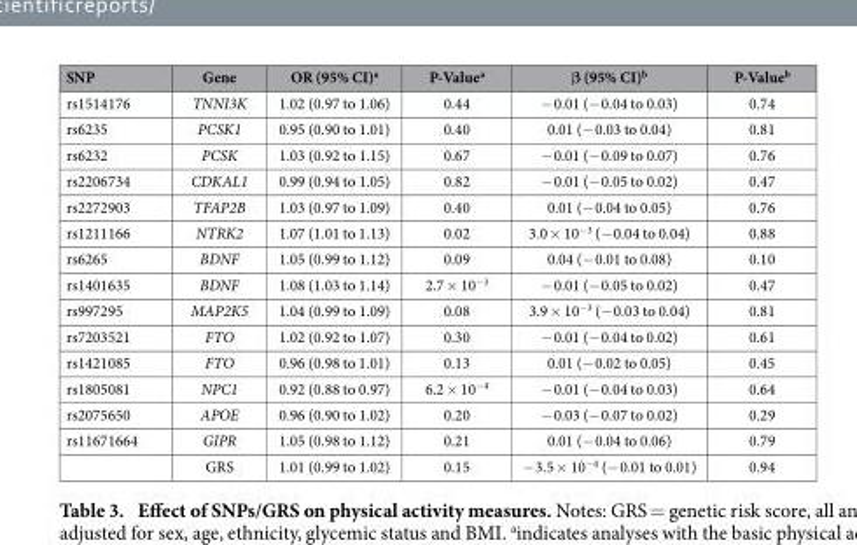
<table><thead><tr><td>SNP</td><td>Gene</td><td>OR (95% CI)<sup>a</sup></td><td>P-Value<sup>a</sup></td><td>β (95% CI)<sup>b</sup></td><td>P-Value<sup>b</sup></td></tr></thead><tbody><tr><td>rs1514176</td><td>TNNI3K</td><td>1.02 (0.97 to 1.06)</td><td>0.44</td><td>− 0.01 (− 0.04 to 0.03)</td><td>0.74</td></tr><tr><td>rs6235</td><td>PCSK1</td><td>0.95 (0.90 to 1.01)</td><td>0.40</td><td>0.01 (− 0.03 to 0.04)</td><td>0.81</td></tr><tr><td>rs6232</td><td>PCSK</td><td>1.03 (0.92 to 1.15)</td><td>0.67</td><td>− 0.01 (− 0.09 to 0.07)</td><td>0.76</td></tr><tr><td>rs2206734</td><td>CDKAL1</td><td>0.99 (0.94 to 1.05)</td><td>0.82</td><td>− 0.01 (− 0.05 to 0.02)</td><td>0.47</td></tr><tr><td>rs2272903</td><td>TFAP2B</td><td>1.03 (0.97 to 1.09)</td><td>0.40</td><td>0.01 (− 0.04 to 0.05)</td><td>0.76</td></tr><tr><td>rs1211166</td><td>NTRK2</td><td>1.07 (1.01 to 1.13)</td><td>0.02</td><td>3.0 × 10<sup>−3</sup> (− 0.04 to 0.04)</td><td>0.88</td></tr><tr><td>rs6265</td><td>BDNF</td><td>1.05 (0.99 to 1.12)</td><td>0.09</td><td>0.04 (− 0.01 to 0.08)</td><td>0.10</td></tr><tr><td>rs1401635</td><td>BDNF</td><td>1.08 (1.03 to 1.14)</td><td>2.7 × 10<sup>−3</sup></td><td>− 0.01 (− 0.05 to 0.02)</td><td>0.47</td></tr><tr><td>rs997295</td><td>MAP2K5</td><td>1.04 (0.99 to 1.09)</td><td>0.08</td><td>3.9 × 10<sup>−3</sup> (− 0.03 to 0.04)</td><td>0.81</td></tr><tr><td>rs7203521</td><td>FTO</td><td>1.02 (0.92 to 1.07)</td><td>0.30</td><td>− 0.01 (− 0.04 to 0.02)</td><td>0.61</td></tr><tr><td>rs1421085</td><td>FTO</td><td>0.96 (0.98 to 1.01)</td><td>0.13</td><td>0.01 (− 0.02 to 0.05)</td><td>0.45</td></tr><tr><td>rs1805081</td><td>NPC1</td><td>0.92 (0.88 to 0.97)</td><td>6.2 × 10<sup>−4</sup></td><td>− 0.01 (− 0.04 to 0.03)</td><td>0.64</td></tr><tr><td>rs2075650</td><td>APOE</td><td>0.96 (0.90 to 1.02)</td><td>0.20</td><td>− 0.03 (− 0.07 to 0.02)</td><td>0.29</td></tr><tr><td rowspan="2">rs11671664</td><td>GIPR</td><td>1.05 (0.98 to 1.12)</td><td>0.21</td><td>0.01 (− 0.04 to 0.06)</td><td>0.79</td></tr><tr><td>GRS</td><td>1.01 (0.99 to 1.02)</td><td>0.15</td><td>− 3.5 × 10<sup>−4</sup> (− 0.01 to 0.01)</td><td>0.94</td></tr></tbody></table>